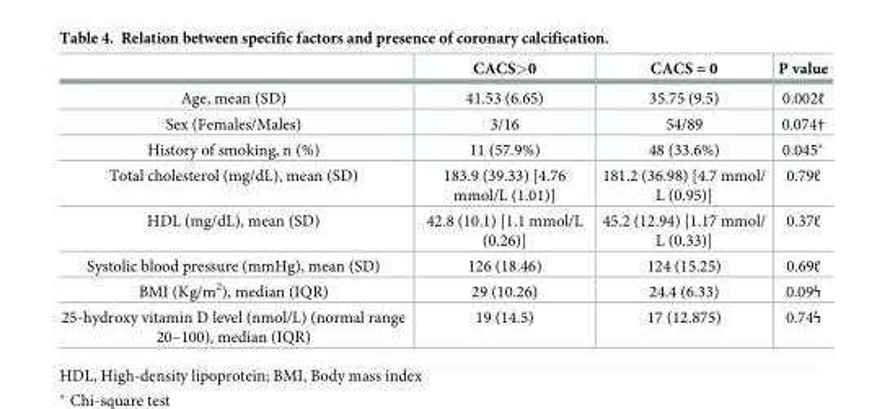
<table><thead><tr><td></td><td>CACS&gt;0</td><td>CACS = 0</td><td>P value</td></tr></thead><tbody><tr><td>Age, mean (SD)</td><td>41.53 (6.65)</td><td>35.75 (9.5)</td><td>0.002ℓ</td></tr><tr><td>Sex (Females/Males)</td><td>3/16</td><td>54/89</td><td>0.074†</td></tr><tr><td>History of smoking, n (%)</td><td>11 (57.9%)</td><td>48 (33.6%)</td><td>0.045*</td></tr><tr><td>Total cholesterol (mg/dL), mean (SD)</td><td>183.9 (39.33) [4.76 mmol/L (1.01)]</td><td>181.2 (36.98) [4.7 mmol/ L (0.95)]</td><td>0.79ℓ</td></tr><tr><td>HDL (mg/dL), mean (SD)</td><td>42.8 (10.1) [1.1 mmol/L (0.26)]</td><td>45.2 (12.94) [1.17 mmol/ L (0.33)]</td><td>0.37ℓ</td></tr><tr><td>Systolic blood pressure (mmHg), mean (SD)</td><td>126 (18.46)</td><td>124 (15.25)</td><td>0.69ℓ</td></tr><tr><td>BMI (Kg/m<sup>2</sup>), median (IQR)</td><td>29 (10.26)</td><td>24.4 (6.33)</td><td>0.09Ϟ</td></tr><tr><td>25-hydroxy vitamin D level (nmol/L) (normal range 20–100), median (IQR)</td><td>19 (14.5)</td><td>17 (12.875)</td><td>0.74Ϟ</td></tr></tbody></table>